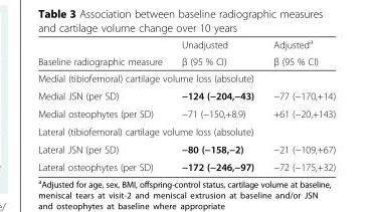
<table><thead><tr><td rowspan="2">Baseline radiographic measure</td><td rowspan="2">Unadjusted β (95 % CI)</td><td rowspan="2">Adjusted<sup>a</sup> β (95 % CI)</td></tr><tr></tr></thead><tbody><tr><td colspan="3">Medial (tibiofemoral) cartilage volume loss (absolute)</td></tr><tr><td>Medial JSN (per SD)</td><td>−124 (−204,−43)</td><td>−77 (−170,+14)</td></tr><tr><td>Medial osteophytes (per SD)</td><td>−71 (−150,+8.9)</td><td>+61 (−20,+143)</td></tr><tr><td colspan="3">Lateral (tibiofemoral) cartilage volume loss (absolute)</td></tr><tr><td>Lateral JSN (per SD)</td><td>−80 (−158,−2)</td><td>−21 (−109,+67)</td></tr><tr><td>Lateral osteophytes (per SD)</td><td>−172 (−246,−97)</td><td>−72 (−175,+32)</td></tr></tbody></table>